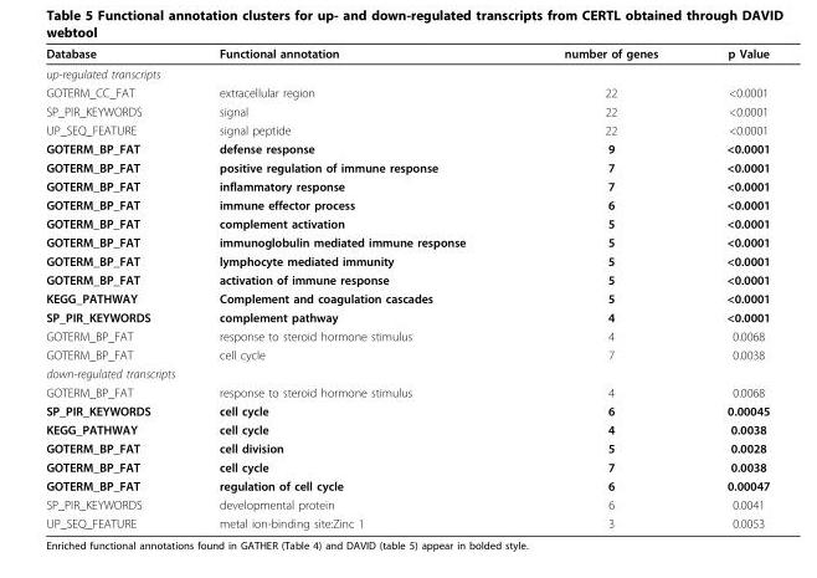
<table><thead><tr><td>Database</td><td>Functional annotation</td><td>number of genes</td><td>p Value</td></tr></thead><tbody><tr><td colspan="4">up-regulated transcripts</td></tr><tr><td>GOTERM_CC_FAT</td><td>extracellular region</td><td>22</td><td>&lt;0.0001</td></tr><tr><td>SP_PIR_KEYWORDS</td><td>signal</td><td>22</td><td>&lt;0.0001</td></tr><tr><td>UP_SEQ_FEATURE</td><td>signal peptide</td><td>22</td><td>&lt;0.0001</td></tr><tr><td>GOTERM_BP_FAT</td><td>defense response</td><td>9</td><td>&lt;0.0001</td></tr><tr><td>GOTERM_BP_FAT</td><td>positive regulation of immune response</td><td>7</td><td>&lt;0.0001</td></tr><tr><td>GOTERM_BP_FAT</td><td>inflammatory response</td><td>7</td><td>&lt;0.0001</td></tr><tr><td>GOTERM_BP_FAT</td><td>immune effector process</td><td>6</td><td>&lt;0.0001</td></tr><tr><td>GOTERM_BP_FAT</td><td>complement activation</td><td>5</td><td>&lt;0.0001</td></tr><tr><td>GOTERM_BP_FAT</td><td>immunoglobulin mediated immune response</td><td>5</td><td>&lt;0.0001</td></tr><tr><td>GOTERM_BP_FAT</td><td>lymphocyte mediated immunity</td><td>5</td><td>&lt;0.0001</td></tr><tr><td>GOTERM_BP_FAT</td><td>activation of immune response</td><td>5</td><td>&lt;0.0001</td></tr><tr><td>KEGG_PATHWAY</td><td>Complement and coagulation cascades</td><td>5</td><td>&lt;0.0001</td></tr><tr><td>SP_PIR_KEYWORDS</td><td>complement pathway</td><td>4</td><td>&lt;0.0001</td></tr><tr><td>GOTERM_BP_FAT</td><td>response to steroid hormone stimulus</td><td>4</td><td>0.0068</td></tr><tr><td>GOTERM_BP_FAT</td><td>cell cycle</td><td>7</td><td>0.0038</td></tr><tr><td colspan="4">down-regulated transcripts</td></tr><tr><td>GOTERM_BP_FAT</td><td>response to steroid hormone stimulus</td><td>4</td><td>0.0068</td></tr><tr><td>SP_PIR_KEYWORDS</td><td>cell cycle</td><td>6</td><td>0.00045</td></tr><tr><td>KEGG_PATHWAY</td><td>cell cycle</td><td>4</td><td>0.0038</td></tr><tr><td>GOTERM_BP_FAT</td><td>cell division</td><td>5</td><td>0.0028</td></tr><tr><td>GOTERM_BP_FAT</td><td>cell cycle</td><td>7</td><td>0.0038</td></tr><tr><td>GOTERM_BP_FAT</td><td>regulation of cell cycle</td><td>6</td><td>0.00047</td></tr><tr><td>SP_PIR_KEYWORDS</td><td>developmental protein</td><td>6</td><td>0.0041</td></tr><tr><td>UP_SEQ_FEATURE</td><td>metal ion-binding site:Zinc 1</td><td>3</td><td>0.0053</td></tr></tbody></table>